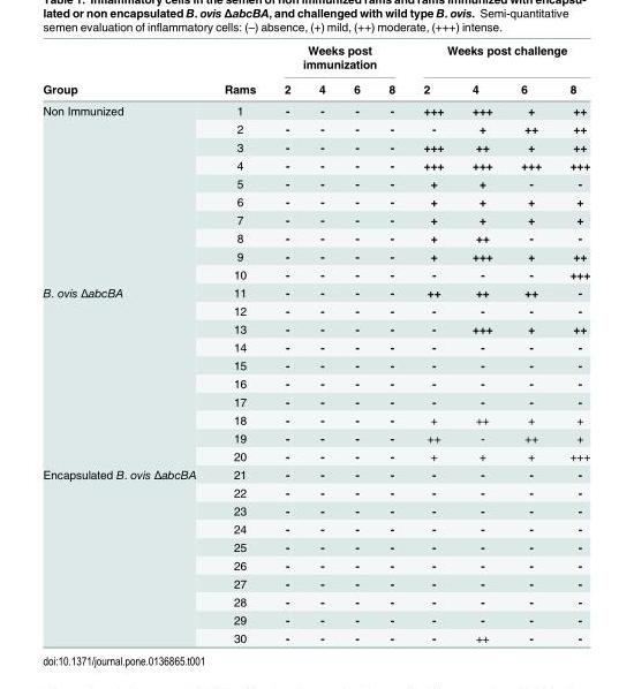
<table><thead><tr><td rowspan="2">Group</td><td rowspan="2">Rams</td><td colspan="4">Weeks post immunization</td><td colspan="4">Weeks post challenge</td></tr><tr><td>2</td><td>4</td><td>6</td><td>8</td><td>2</td><td>4</td><td>6</td><td>8</td></tr></thead><tbody><tr><td rowspan="10">Non Immunized</td><td>1</td><td>-</td><td>-</td><td>-</td><td>-</td><td>+++</td><td>+++</td><td>+</td><td>++</td></tr><tr><td>2</td><td>-</td><td>-</td><td>-</td><td>-</td><td>-</td><td>+</td><td>++</td><td>++</td></tr><tr><td>3</td><td>-</td><td>-</td><td>-</td><td>-</td><td>+++</td><td>++</td><td>+</td><td>++</td></tr><tr><td>4</td><td>-</td><td>-</td><td>-</td><td>-</td><td>+++</td><td>+++</td><td>+++</td><td>+++</td></tr><tr><td>5</td><td>-</td><td>-</td><td>-</td><td>-</td><td>+</td><td>+</td><td>-</td><td>-</td></tr><tr><td>6</td><td>-</td><td>-</td><td>-</td><td>-</td><td>+</td><td>+</td><td>+</td><td>+</td></tr><tr><td>7</td><td>-</td><td>-</td><td>-</td><td>-</td><td>+</td><td>+</td><td>+</td><td>+</td></tr><tr><td>8</td><td>-</td><td>-</td><td>-</td><td>-</td><td>+</td><td>++</td><td>-</td><td>-</td></tr><tr><td>9</td><td>-</td><td>-</td><td>-</td><td>-</td><td>+</td><td>+++</td><td>+</td><td>++</td></tr><tr><td>10</td><td>-</td><td>-</td><td>-</td><td>-</td><td>-</td><td>-</td><td>-</td><td>+++</td></tr><tr><td rowspan="10">B. ovis ΔabcBA</td><td>11</td><td>-</td><td>-</td><td>-</td><td>-</td><td>++</td><td>++</td><td>++</td><td>-</td></tr><tr><td>12</td><td>-</td><td>-</td><td>-</td><td>-</td><td>-</td><td>-</td><td>-</td><td>-</td></tr><tr><td>13</td><td>-</td><td>-</td><td>-</td><td>-</td><td>-</td><td>+++</td><td>+</td><td>++</td></tr><tr><td>14</td><td>-</td><td>-</td><td>-</td><td>-</td><td>-</td><td>-</td><td>-</td><td>-</td></tr><tr><td>15</td><td>-</td><td>-</td><td>-</td><td>-</td><td>-</td><td>-</td><td>-</td><td>-</td></tr><tr><td>16</td><td>-</td><td>-</td><td>-</td><td>-</td><td>-</td><td>-</td><td>-</td><td>-</td></tr><tr><td>17</td><td>-</td><td>-</td><td>-</td><td>-</td><td>-</td><td>-</td><td>-</td><td>-</td></tr><tr><td>18</td><td>-</td><td>-</td><td>-</td><td>-</td><td>+</td><td>++</td><td>+</td><td>+</td></tr><tr><td>19</td><td>-</td><td>-</td><td>-</td><td>-</td><td>++</td><td>-</td><td>++</td><td>+</td></tr><tr><td>20</td><td>-</td><td>-</td><td>-</td><td>-</td><td>+</td><td>+</td><td>+</td><td>+++</td></tr><tr><td rowspan="10">Encapsulated B. ovis ΔabcBA</td><td>21</td><td>-</td><td>-</td><td>-</td><td>-</td><td>-</td><td>-</td><td>-</td><td>-</td></tr><tr><td>22</td><td>-</td><td>-</td><td>-</td><td>-</td><td>-</td><td>-</td><td>-</td><td>-</td></tr><tr><td>23</td><td>-</td><td>-</td><td>-</td><td>-</td><td>-</td><td>-</td><td>-</td><td>-</td></tr><tr><td>24</td><td>-</td><td>-</td><td>-</td><td>-</td><td>-</td><td>-</td><td>-</td><td>-</td></tr><tr><td>25</td><td>-</td><td>-</td><td>-</td><td>-</td><td>-</td><td>-</td><td>-</td><td>-</td></tr><tr><td>26</td><td>-</td><td>-</td><td>-</td><td>-</td><td>-</td><td>-</td><td>-</td><td>-</td></tr><tr><td>27</td><td>-</td><td>-</td><td>-</td><td>-</td><td>-</td><td>-</td><td>-</td><td>-</td></tr><tr><td>28</td><td>-</td><td>-</td><td>-</td><td>-</td><td>-</td><td>-</td><td>-</td><td>-</td></tr><tr><td>29</td><td>-</td><td>-</td><td>-</td><td>-</td><td>-</td><td>-</td><td>-</td><td>-</td></tr><tr><td>30</td><td>-</td><td>-</td><td>-</td><td>-</td><td>-</td><td>++</td><td>-</td><td>-</td></tr></tbody></table>